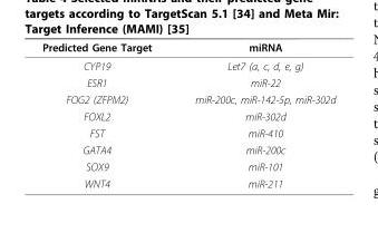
<table><thead><tr><td>Predicted Gene Target</td><td>miRNA</td></tr></thead><tbody><tr><td>CYP19</td><td>Let7 (a, c, d, e, g)</td></tr><tr><td>ESR1</td><td>miR-22</td></tr><tr><td>FOG2 (ZFPM2)</td><td>miR-200c, miR-142-5p, miR-302d</td></tr><tr><td>FOXL2</td><td>miR-302d</td></tr><tr><td>FST</td><td>miR-410</td></tr><tr><td>GATA4</td><td>miR-200c</td></tr><tr><td>SOX9</td><td>miR-101</td></tr><tr><td>WNT4</td><td>miR-211</td></tr></tbody></table>